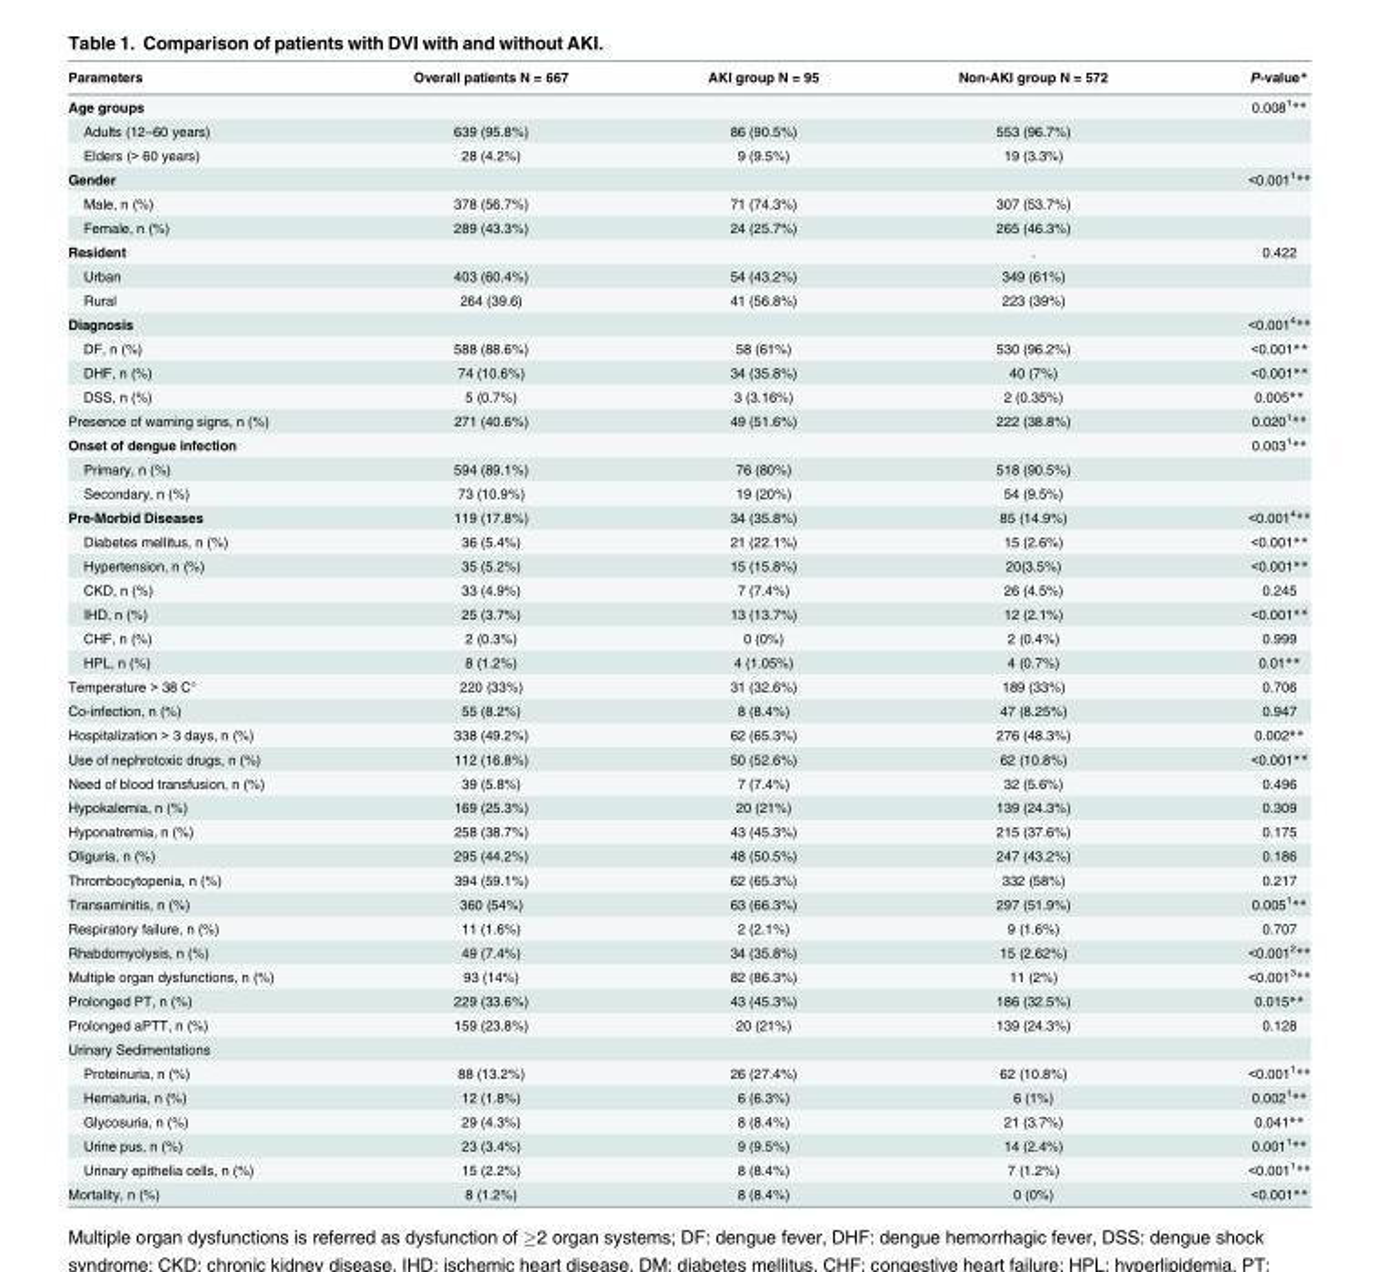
<table><thead><tr><td>Parameters</td><td>Overall patients N = 667</td><td>AKI group N = 95</td><td>Non-AKI group N = 572</td><td>P-value*</td></tr></thead><tbody><tr><td>Age groups</td><td></td><td></td><td></td><td>0.008<sup>1</sup>**</td></tr><tr><td>Adults (12–60 years)</td><td>639 (95.8%)</td><td>86 (90.5%)</td><td>553 (96.7%)</td><td></td></tr><tr><td>Elders (&gt; 60 years)</td><td>28 (4.2%)</td><td>9 (9.5%)</td><td>19 (3.3%)</td><td></td></tr><tr><td>Gender</td><td></td><td></td><td></td><td>&lt;0.001<sup>1</sup>**</td></tr><tr><td>Male, n (%)</td><td>378 (56.7%)</td><td>71 (74.3%)</td><td>307 (53.7%)</td><td></td></tr><tr><td>Female, n (%)</td><td>289 (43.3%)</td><td>24 (25.7%)</td><td>265 (46.3%)</td><td></td></tr><tr><td>Resident</td><td></td><td></td><td>.</td><td>0.422</td></tr><tr><td>Urban</td><td>403 (60.4%)</td><td>54 (43.2%)</td><td>349 (61%)</td><td></td></tr><tr><td>Rural</td><td>264 (39.6)</td><td>41 (56.8%)</td><td>223 (39%)</td><td></td></tr><tr><td>Diagnosis</td><td></td><td></td><td></td><td>&lt;0.001<sup>4</sup>**</td></tr><tr><td>DF, n (%)</td><td>588 (88.6%)</td><td>58 (61%)</td><td>530 (96.2%)</td><td>&lt;0.001**</td></tr><tr><td>DHF, n (%)</td><td>74 (10.6%)</td><td>34 (35.8%)</td><td>40 (7%)</td><td>&lt;0.001**</td></tr><tr><td>DSS, n (%)</td><td>5 (0.7%)</td><td>3 (3.16%)</td><td>2 (0.35%)</td><td>0.005**</td></tr><tr><td>Presence of warning signs, n (%)</td><td>271 (40.6%)</td><td>49 (51.6%)</td><td>222 (38.8%)</td><td>0.020<sup>1</sup>**</td></tr><tr><td>Onset of dengue infection</td><td></td><td></td><td></td><td>0.003<sup>1</sup>**</td></tr><tr><td>Primary, n (%)</td><td>594 (89.1%)</td><td>76 (80%)</td><td>518 (90.5%)</td><td></td></tr><tr><td>Secondary, n (%)</td><td>73 (10.9%)</td><td>19 (20%)</td><td>54 (9.5%)</td><td></td></tr><tr><td>Pre-Morbid Diseases</td><td>119 (17.8%)</td><td>34 (35.8%)</td><td>85 (14.9%)</td><td>&lt;0.001<sup>4</sup>**</td></tr><tr><td>Diabetes mellitus, n (%)</td><td>36 (5.4%)</td><td>21 (22.1%)</td><td>15 (2.6%)</td><td>&lt;0.001**</td></tr><tr><td>Hypertension, n (%)</td><td>35 (5.2%)</td><td>15 (15.8%)</td><td>20(3.5%)</td><td>&lt;0.001**</td></tr><tr><td>CKD, n (%)</td><td>33 (4.9%)</td><td>7 (7.4%)</td><td>26 (4.5%)</td><td>0.245</td></tr><tr><td>IHD, n (%)</td><td>25 (3.7%)</td><td>13 (13.7%)</td><td>12 (2.1%)</td><td>&lt;0.001**</td></tr><tr><td>CHF, n (%)</td><td>2 (0.3%)</td><td>0 (0%)</td><td>2 (0.4%)</td><td>0.999</td></tr><tr><td>HPL, n (%)</td><td>8 (1.2%)</td><td>4 (1.05%)</td><td>4 (0.7%)</td><td>0.01**</td></tr><tr><td>Temperature &gt; 38 C°</td><td>220 (33%)</td><td>31 (32.6%)</td><td>189 (33%)</td><td>0.706</td></tr><tr><td>Co-infection, n (%)</td><td>55 (8.2%)</td><td>8 (8.4%)</td><td>47 (8.25%)</td><td>0.947</td></tr><tr><td>Hospitalization &gt; 3 days, n (%)</td><td>338 (49.2%)</td><td>62 (65.3%)</td><td>276 (48.3%)</td><td>0.002**</td></tr><tr><td>Use of nephrotoxic drugs, n (%)</td><td>112 (16.8%)</td><td>50 (52.6%)</td><td>62 (10.8%)</td><td>&lt;0.001**</td></tr><tr><td>Need of blood transfusion, n (%)</td><td>39 (5.8%)</td><td>7 (7.4%)</td><td>32 (5.6%)</td><td>0.496</td></tr><tr><td>Hypokalemia, n (%)</td><td>169 (25.3%)</td><td>20 (21%)</td><td>139 (24.3%)</td><td>0.309</td></tr><tr><td>Hyponatremia, n (%)</td><td>258 (38.7%)</td><td>43 (45.3%)</td><td>215 (37.6%)</td><td>0.175</td></tr><tr><td>Oliguria, n (%)</td><td>295 (44.2%)</td><td>48 (50.5%)</td><td>247 (43.2%)</td><td>0.186</td></tr><tr><td>Thrombocytopenia, n (%)</td><td>394 (59.1%)</td><td>62 (65.3%)</td><td>332 (58%)</td><td>0.217</td></tr><tr><td>Transaminitis, n (%)</td><td>360 (54%)</td><td>63 (66.3%)</td><td>297 (51.9%)</td><td>0.005<sup>1</sup>**</td></tr><tr><td>Respiratory failure, n (%)</td><td>11 (1.6%)</td><td>2 (2.1%)</td><td>9 (1.6%)</td><td>0.707</td></tr><tr><td>Rhabdomyolysis, n (%)</td><td>49 (7.4%)</td><td>34 (35.8%)</td><td>15 (2.62%)</td><td>&lt;0.001<sup>2</sup>**</td></tr><tr><td>Multiple organ dysfunctions, n (%)</td><td>93 (14%)</td><td>82 (86.3%)</td><td>11 (2%)</td><td>&lt;0.001<sup>3</sup>**</td></tr><tr><td>Prolonged PT, n (%)</td><td>229 (33.6%)</td><td>43 (45.3%)</td><td>186 (32.5%)</td><td>0.015**</td></tr><tr><td>Prolonged aPTT, n (%)</td><td>159 (23.8%)</td><td>20 (21%)</td><td>139 (24.3%)</td><td>0.128</td></tr><tr><td colspan="5">Urinary Sedimentations</td></tr><tr><td>Proteinuria, n (%)</td><td>88 (13.2%)</td><td>26 (27.4%)</td><td>62 (10.8%)</td><td>&lt;0.001<sup>1</sup>**</td></tr><tr><td>Hematuria, n (%)</td><td>12 (1.8%)</td><td>6 (6.3%)</td><td>6 (1%)</td><td>0.002<sup>1</sup>**</td></tr><tr><td>Glycosuria, n (%)</td><td>29 (4.3%)</td><td>8 (8.4%)</td><td>21 (3.7%)</td><td>0.041**</td></tr><tr><td>Urine pus, n (%)</td><td>23 (3.4%)</td><td>9 (9.5%)</td><td>14 (2.4%)</td><td>0.001<sup>1</sup>**</td></tr><tr><td>Urinary epithelia cells, n (%)</td><td>15 (2.2%)</td><td>8 (8.4%)</td><td>7 (1.2%)</td><td>&lt;0.001<sup>1</sup>**</td></tr><tr><td>Mortality, n (%)</td><td>8 (1.2%)</td><td>8 (8.4%)</td><td>0 (0%)</td><td>&lt;0.001**</td></tr></tbody></table>